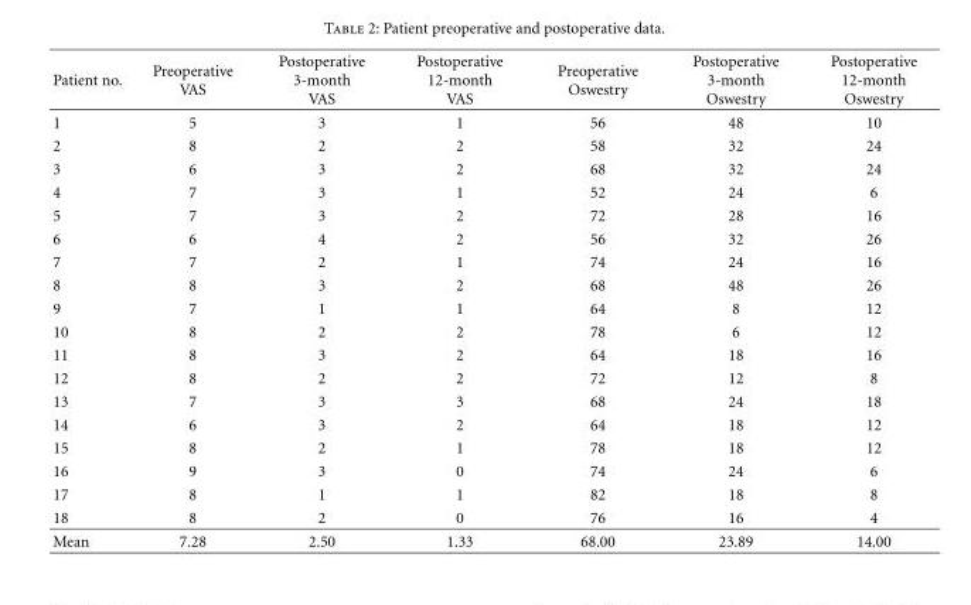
<table><thead><tr><td>Patient no.</td><td>Preoperative VAS</td><td>Postoperative 3-month VAS</td><td>Postoperative 12-month VAS</td><td>Preoperative Oswestry</td><td>Postoperative 3-month Oswestry</td><td>Postoperative 12-month Oswestry</td></tr></thead><tbody><tr><td>1</td><td>5</td><td>3</td><td>1</td><td>56</td><td>48</td><td>10</td></tr><tr><td>2</td><td>8</td><td>2</td><td>2</td><td>58</td><td>32</td><td>24</td></tr><tr><td>3</td><td>6</td><td>3</td><td>2</td><td>68</td><td>32</td><td>24</td></tr><tr><td>4</td><td>7</td><td>3</td><td>1</td><td>52</td><td>24</td><td>6</td></tr><tr><td>5</td><td>7</td><td>3</td><td>2</td><td>72</td><td>28</td><td>16</td></tr><tr><td>6</td><td>6</td><td>4</td><td>2</td><td>56</td><td>32</td><td>26</td></tr><tr><td>7</td><td>7</td><td>2</td><td>1</td><td>74</td><td>24</td><td>16</td></tr><tr><td>8</td><td>8</td><td>3</td><td>2</td><td>68</td><td>48</td><td>26</td></tr><tr><td>9</td><td>7</td><td>1</td><td>1</td><td>64</td><td>8</td><td>12</td></tr><tr><td>10</td><td>8</td><td>2</td><td>2</td><td>78</td><td>6</td><td>12</td></tr><tr><td>11</td><td>8</td><td>3</td><td>2</td><td>64</td><td>18</td><td>16</td></tr><tr><td>12</td><td>8</td><td>2</td><td>2</td><td>72</td><td>12</td><td>8</td></tr><tr><td>13</td><td>7</td><td>3</td><td>3</td><td>68</td><td>24</td><td>18</td></tr><tr><td>14</td><td>6</td><td>3</td><td>2</td><td>64</td><td>18</td><td>12</td></tr><tr><td>15</td><td>8</td><td>2</td><td>1</td><td>78</td><td>18</td><td>12</td></tr><tr><td>16</td><td>9</td><td>3</td><td>0</td><td>74</td><td>24</td><td>6</td></tr><tr><td>17</td><td>8</td><td>1</td><td>1</td><td>82</td><td>18</td><td>8</td></tr><tr><td>18</td><td>8</td><td>2</td><td>0</td><td>76</td><td>16</td><td>4</td></tr><tr><td>Mean</td><td>7.28</td><td>2.50</td><td>1.33</td><td>68.00</td><td>23.89</td><td>14.00</td></tr></tbody></table>